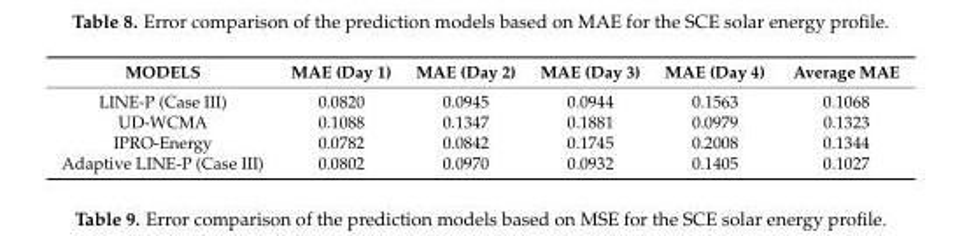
<table><thead><tr><td>MODELS</td><td>MAE (Day 1)</td><td>MAE (Day 2)</td><td>MAE (Day 3)</td><td>MAE (Day 4)</td><td>Average MAE</td></tr></thead><tbody><tr><td>LINE-P (Case III)</td><td>0.0820</td><td>0.0945</td><td>0.0944</td><td>0.1563</td><td>0.1068</td></tr><tr><td>UD-WCMA</td><td>0.1088</td><td>0.1347</td><td>0.1881</td><td>0.0979</td><td>0.1323</td></tr><tr><td>IPRO-Energy</td><td>0.0782</td><td>0.0842</td><td>0.1745</td><td>0.2008</td><td>0.1344</td></tr><tr><td>Adaptive LINE-P (Case III)</td><td>0.0802</td><td>0.0970</td><td>0.0932</td><td>0.1405</td><td>0.1027</td></tr></tbody></table>